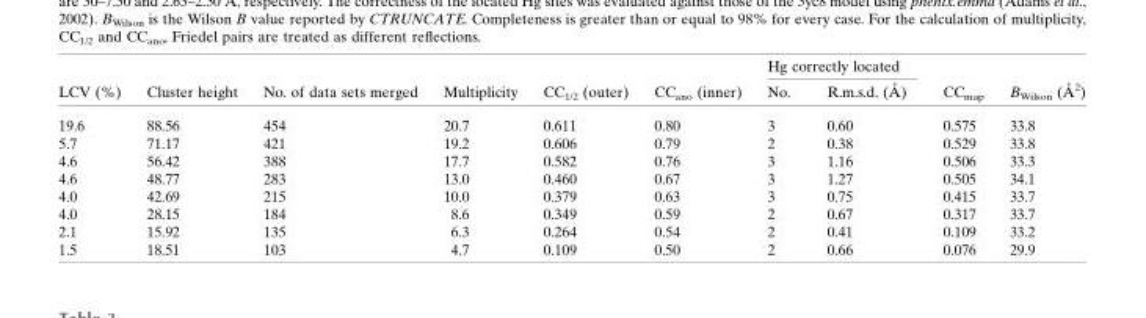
<table><thead><tr><td rowspan="2">LCV (%)</td><td rowspan="2">Cluster height</td><td rowspan="2">No. of data sets merged</td><td rowspan="2">Multiplicity</td><td rowspan="2">CC<sub>1/2</sub> (outer)</td><td rowspan="2">CC<sub>ano</sub> (inner)</td><td colspan="2">Hg correctly located</td><td rowspan="2">CC<sub>map</sub></td><td rowspan="2">BWilson (A˚ 2)</td></tr><tr><td>No.</td><td>R.m.s.d. (A˚ )</td></tr></thead><tbody><tr><td>19.6</td><td>88.56</td><td>454</td><td>20.7</td><td>0.611</td><td>0.80</td><td>3</td><td>0.60</td><td>0.575</td><td>33.8</td></tr><tr><td>5.7</td><td>71.17</td><td>421</td><td>19.2</td><td>0.606</td><td>0.79</td><td>2</td><td>0.38</td><td>0.529</td><td>33.8</td></tr><tr><td>4.6</td><td>56.42</td><td>388</td><td>17.7</td><td>0.582</td><td>0.76</td><td>3</td><td>1.16</td><td>0.506</td><td>33.3</td></tr><tr><td>4.6</td><td>48.77</td><td>283</td><td>13.0</td><td>0.460</td><td>0.67</td><td>3</td><td>1.27</td><td>0.505</td><td>34.1</td></tr><tr><td>4.0</td><td>42.69</td><td>215</td><td>10.0</td><td>0.379</td><td>0.63</td><td>3</td><td>0.75</td><td>0.415</td><td>33.7</td></tr><tr><td>4.0</td><td>28.15</td><td>184</td><td>8.6</td><td>0.349</td><td>0.59</td><td>2</td><td>0.67</td><td>0.317</td><td>33.7</td></tr><tr><td>2.1</td><td>15.92</td><td>135</td><td>6.3</td><td>0.264</td><td>0.54</td><td>2</td><td>0.41</td><td>0.109</td><td>33.2</td></tr><tr><td>1.5</td><td>18.51</td><td>103</td><td>4.7</td><td>0.109</td><td>0.50</td><td>2</td><td>0.66</td><td>0.076</td><td>29.9</td></tr></tbody></table>